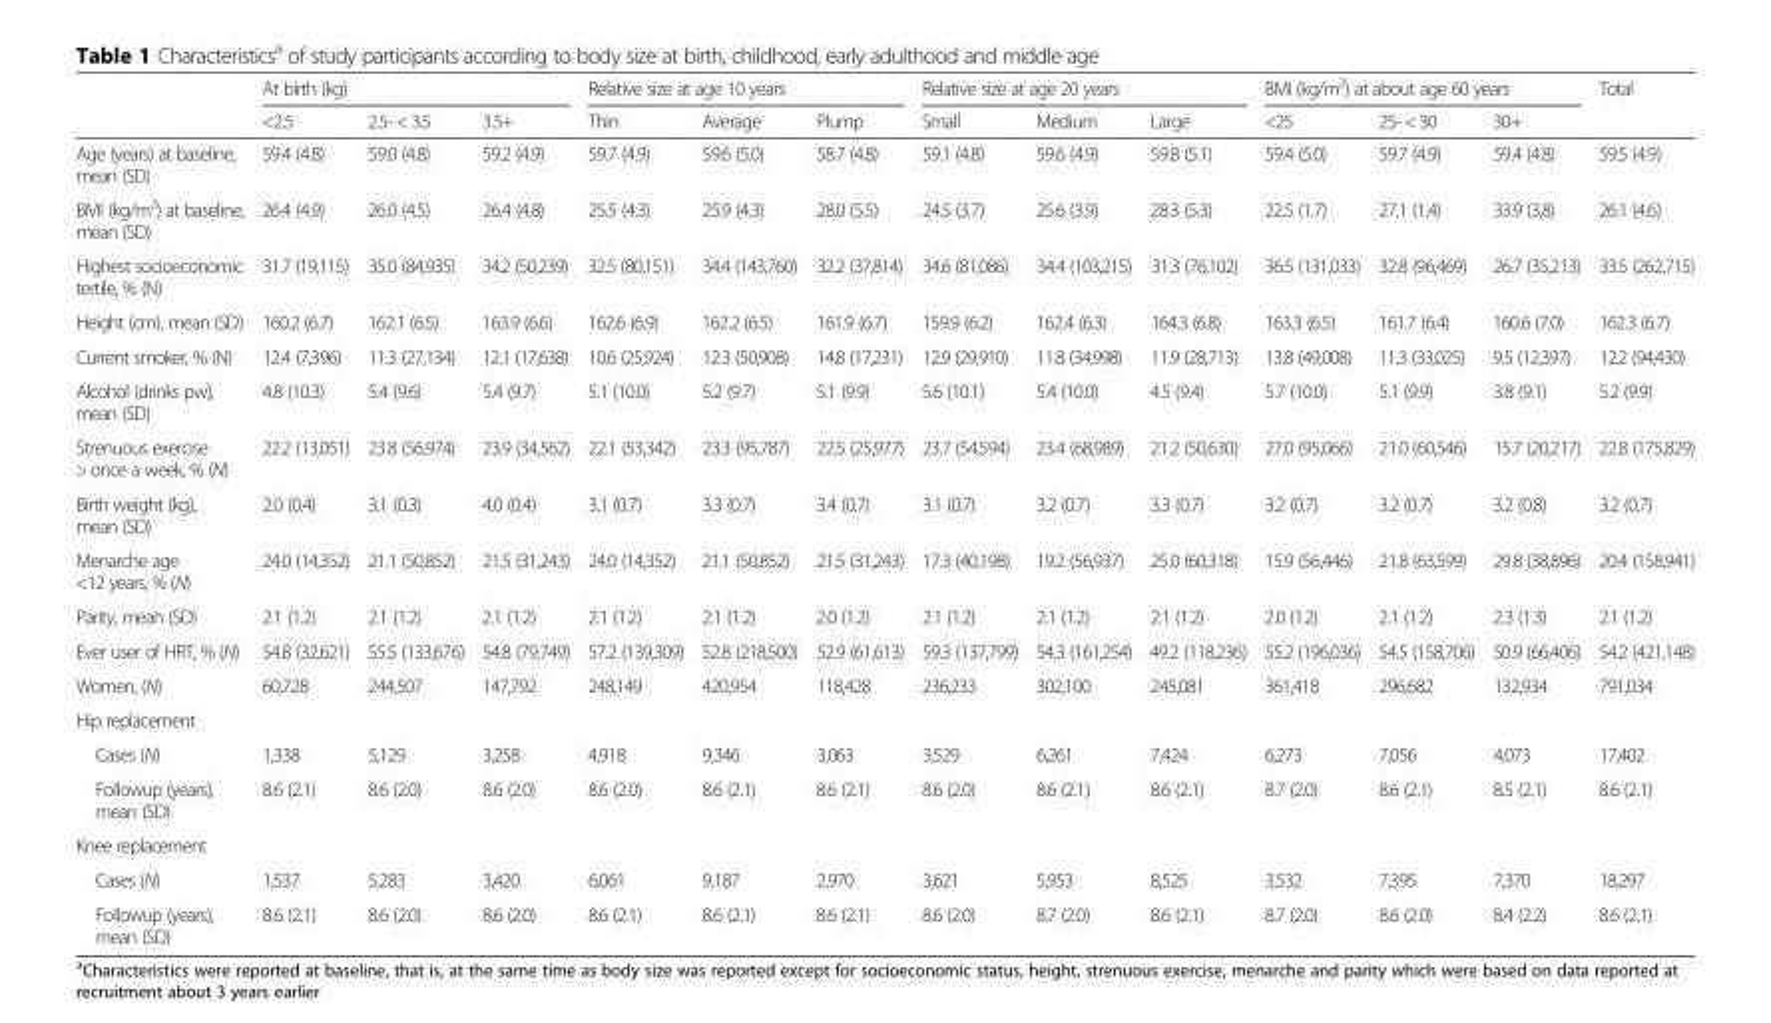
<table><thead><tr><td rowspan="2"></td><td colspan="3">At birth (kg)</td><td colspan="3">Relative size at age 10 years</td><td colspan="3">Relative size at age 20 years</td><td colspan="3">BMI (kg/m<sup>2</sup>) at about age 60 years</td><td rowspan="2">Total</td></tr><tr><td>&lt;2.5</td><td>2.5- &lt; 3.5</td><td>3.5+</td><td>Thin</td><td>Average</td><td>Plump</td><td>Small</td><td>Medium</td><td>Large</td><td>&lt;25</td><td>25- &lt; 30</td><td>30+</td></tr></thead><tbody><tr><td>Age (years) at baseline, mean (SD)</td><td>59.4 (4.8)</td><td>59.0 (4.8)</td><td>59.2 (4.9)</td><td>59.7 (4.9)</td><td>59.6 (5.0)</td><td>58.7 (4.8)</td><td>59.1 (4.8)</td><td>59.6 (4.9)</td><td>59.8 (5.1)</td><td>59.4 (5.0)</td><td>59.7 (4.9)</td><td>59.4 (4.8)</td><td>59.5 (4.9)</td></tr><tr><td>BMI (kg/m<sup>2</sup>) at baseline, mean (SD)</td><td>26.4 (4.9)</td><td>26.0 (4.5)</td><td>26.4 (4.8)</td><td>25.5 (4.3)</td><td>25.9 (4.3)</td><td>28.0 (5.5)</td><td>24.5 (3.7)</td><td>25.6 (3.9)</td><td>28.3 (5.3)</td><td>22.5 (1.7)</td><td>27.1 (1.4)</td><td>33.9 (3.8)</td><td>26.1 (4.6)</td></tr><tr><td>Highest socioeconomic tertile, % (N)</td><td>31.7 (19,115)</td><td>35.0 (84,935)</td><td>34.2 (50,239)</td><td>32.5 (80,151)</td><td>34.4 (143,760)</td><td>32.2 (37,814)</td><td>34.6 (81,086)</td><td>34.4 (103,215)</td><td>31.3 (76,102)</td><td>36.5 (131,033)</td><td>32.8 (96,469)</td><td>26.7 (35,213)</td><td>33.5 (262,715)</td></tr><tr><td>Height (cm), mean (SD)</td><td>160.2 (6.7)</td><td>162.1 (6.5)</td><td>163.9 (6.6)</td><td>162.6 (6.9)</td><td>162.2 (6.5)</td><td>161.9 (6.7)</td><td>159.9 (6.2)</td><td>162.4 (6.3)</td><td>164.3 (6.8)</td><td>163.3 (6.5)</td><td>161.7 (6.4)</td><td>160.6 (7.0)</td><td>162.3 (6.7)</td></tr><tr><td>Current smoker, % (N)</td><td>12.4 (7,396)</td><td>11.3 (27,134)</td><td>12.1 (17,638)</td><td>10.6 (25,924)</td><td>12.3 (50,908)</td><td>14.8 (17,231)</td><td>12.9 (29,910)</td><td>11.8 (34,998)</td><td>11.9 (28,713)</td><td>13.8 (49,008)</td><td>11.3 (33,025)</td><td>9.5 (12,397)</td><td>12.2 (94,430)</td></tr><tr><td>Alcohol (drinks pw), mean (SD)</td><td>4.8 (10.3)</td><td>5.4 (9.6)</td><td>5.4 (9.7)</td><td>5.1 (10.0)</td><td>5.2 (9.7)</td><td>5.1 (9.9)</td><td>5.6 (10.1)</td><td>5.4 (10.0)</td><td>4.5 (9.4)</td><td>5.7 (10.0)</td><td>5.1 (9.9)</td><td>3.8 (9.1)</td><td>5.2 (9.9)</td></tr><tr><td>Strenuous exercise &gt; once a week, % (N)</td><td>22.2 (13,051)</td><td>23.8 (56,974)</td><td>23.9 (34,562)</td><td>22.1 (53,342)</td><td>23.3 (95,787)</td><td>22.5 (25,977)</td><td>23.7 (54,594)</td><td>23.4 (68,989)</td><td>21.2 (50,630)</td><td>27.0 (95,066)</td><td>21.0 (60,546)</td><td>15.7 (20,217)</td><td>22.8 (175,829)</td></tr><tr><td>Birth weight (kg), mean (SD)</td><td>2.0 (0.4)</td><td>3.1 (0.3)</td><td>4.0 (0.4)</td><td>3.1 (0.7)</td><td>3.3 (0.7)</td><td>3.4 (0.7)</td><td>3.1 (0.7)</td><td>3.2 (0.7)</td><td>3.3 (0.7)</td><td>3.2 (0.7)</td><td>3.2 (0.7)</td><td>3.2 (0.8)</td><td>3.2 (0.7)</td></tr><tr><td>Menarche age &lt;12 years, % (N)</td><td>24.0 (14,352)</td><td>21.1 (50,852)</td><td>21.5 (31,243)</td><td>24.0 (14,352)</td><td>21.1 (50,852)</td><td>21.5 (31,243)</td><td>17.3 (40,198)</td><td>19.2 (56,937)</td><td>25.0 (60,318)</td><td>15.9 (56,446)</td><td>21.8 (63,599)</td><td>29.8 (38,896)</td><td>20.4 (158,941)</td></tr><tr><td>Parity, mean (SD)</td><td>2.1 (1.2)</td><td>2.1 (1.2)</td><td>2.1 (1.2)</td><td>2.1 (1.2)</td><td>2.1 (1.2)</td><td>2.0 (1.2)</td><td>2.1 (1.2)</td><td>2.1 (1.2)</td><td>2.1 (1.2)</td><td>2.0 (1.2)</td><td>2.1 (1.2)</td><td>2.3 (1.3)</td><td>2.1 (1.2)</td></tr><tr><td>Ever user of HRT, % (N)</td><td>54.8 (32,621)</td><td>55.5 (133,676)</td><td>54.8 (79,749)</td><td>57.2 (139,309)</td><td>52.8 (218,500)</td><td>52.9 (61,613)</td><td>59.3 (137,799)</td><td>54.3 (161,254)</td><td>49.2 (118,236)</td><td>55.2 (196,036)</td><td>54.5 (158,706)</td><td>50.9 (66,406)</td><td>54.2 (421,148)</td></tr><tr><td>Women, (N)</td><td>60,728</td><td>244,507</td><td>147,792</td><td>248,149</td><td>420,954</td><td>118,428</td><td>236,233</td><td>302,100</td><td>245,081</td><td>361,418</td><td>296,682</td><td>132,934</td><td>791,034</td></tr><tr><td colspan="14">Hip replacement</td></tr><tr><td>Cases (N)</td><td>1,338</td><td>5,129</td><td>3,258</td><td>4,918</td><td>9,346</td><td>3,063</td><td>3,529</td><td>6,261</td><td>7,424</td><td>6,273</td><td>7,056</td><td>4,073</td><td>17,402</td></tr><tr><td>Followup (years), mean (SD)</td><td>8.6 (2.1)</td><td>8.6 (2.0)</td><td>8.6 (2.0)</td><td>8.6 (2.0)</td><td>8.6 (2.1)</td><td>8.6 (2.1)</td><td>8.6 (2.0)</td><td>8.6 (2.1)</td><td>8.6 (2.1)</td><td>8.7 (2.0)</td><td>8.6 (2.1)</td><td>8.5 (2.1)</td><td>8.6 (2.1)</td></tr><tr><td colspan="14">Knee replacement</td></tr><tr><td>Cases (N)</td><td>1,537</td><td>5,283</td><td>3,420</td><td>6,061</td><td>9,187</td><td>2,970</td><td>3,621</td><td>5,953</td><td>8,525</td><td>3,532</td><td>7,395</td><td>7,370</td><td>18,297</td></tr><tr><td>Followup (years), mean (SD)</td><td>8.6 (2.1)</td><td>8.6 (2.0)</td><td>8.6 (2.0)</td><td>8.6 (2.1)</td><td>8.6 (2.1)</td><td>8.6 (2.1)</td><td>8.6 (2.0)</td><td>8.7 (2.0)</td><td>8.6 (2.1)</td><td>8.7 (2.0)</td><td>8.6 (2.0)</td><td>8.4 (2.2)</td><td>8.6 (2.1)</td></tr></tbody></table>